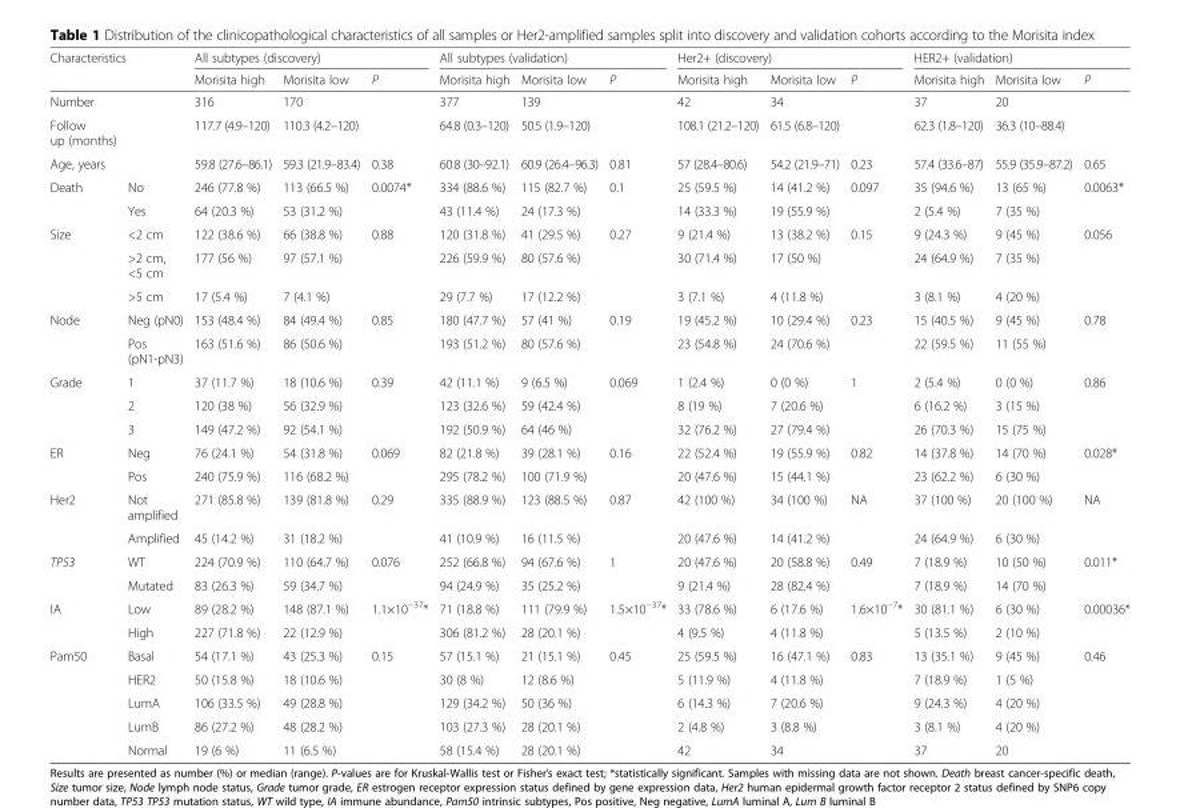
<table><thead><tr><td rowspan="2" colspan="2">Characteristics</td><td colspan="3">All subtypes (discovery)</td><td colspan="3">All subtypes (validation)</td><td colspan="3">Her2+ (discovery)</td><td colspan="3">HER2+ (validation)</td></tr><tr><td rowspan="2">Morisita high 316</td><td rowspan="2">Morisita low 170</td><td rowspan="2">P</td><td rowspan="2">Morisita high 377</td><td rowspan="2">Morisita low 139</td><td rowspan="2">P</td><td rowspan="2">Morisita high 42</td><td rowspan="2">Morisita low 34</td><td rowspan="2">P</td><td rowspan="2">Morisita high 37</td><td rowspan="2">Morisita low 20</td><td rowspan="2">P</td></tr><tr><td>Number</td><td></td></tr></thead><tbody><tr><td>Follow up (months)</td><td></td><td>117.7 (4.9–120)</td><td>110.3 (4.2–120)</td><td></td><td>64.8 (0.3–120)</td><td>50.5 (1.9–120)</td><td></td><td>108.1 (21.2–120)</td><td>61.5 (6.8–120)</td><td></td><td>62.3 (1.8–120)</td><td>36.3 (10–88.4)</td><td></td></tr><tr><td>Age, years</td><td></td><td>59.8 (27.6–86.1)</td><td>59.3 (21.9–83.4)</td><td>0.38</td><td>60.8 (30–92.1)</td><td>60.9 (26.4–96.3)</td><td>0.81</td><td>57 (28.4–80.6)</td><td>54.2 (21.9–71)</td><td>0.23</td><td>57.4 (33.6–87)</td><td>55.9 (35.9–87.2)</td><td>0.65</td></tr><tr><td rowspan="2">Death</td><td>No</td><td>246 (77.8 %)</td><td>113 (66.5 %)</td><td>0.0074*</td><td>334 (88.6 %)</td><td>115 (82.7 %)</td><td>0.1</td><td>25 (59.5 %)</td><td>14 (41.2 %)</td><td>0.097</td><td>35 (94.6 %)</td><td>13 (65 %)</td><td>0.0063*</td></tr><tr><td>Yes</td><td>64 (20.3 %)</td><td>53 (31.2 %)</td><td></td><td>43 (11.4 %)</td><td>24 (17.3 %)</td><td></td><td>14 (33.3 %)</td><td>19 (55.9 %)</td><td></td><td>2 (5.4 %)</td><td>7 (35 %)</td><td></td></tr><tr><td rowspan="3">Size</td><td>&lt;2 cm</td><td>122 (38.6 %)</td><td>66 (38.8 %)</td><td>0.88</td><td>120 (31.8 %)</td><td>41 (29.5 %)</td><td>0.27</td><td>9 (21.4 %)</td><td>13 (38.2 %)</td><td>0.15</td><td>9 (24.3 %)</td><td>9 (45 %)</td><td>0.056</td></tr><tr><td>&gt;2 cm, &lt;5 cm</td><td>177 (56 %)</td><td>97 (57.1 %)</td><td></td><td>226 (59.9 %)</td><td>80 (57.6 %)</td><td></td><td>30 (71.4 %)</td><td>17 (50 %)</td><td></td><td>24 (64.9 %)</td><td>7 (35 %)</td><td></td></tr><tr><td>&gt;5 cm</td><td>17 (5.4 %)</td><td>7 (4.1 %)</td><td></td><td>29 (7.7 %)</td><td>17 (12.2 %)</td><td></td><td>3 (7.1 %)</td><td>4 (11.8 %)</td><td></td><td>3 (8.1 %)</td><td>4 (20 %)</td><td></td></tr><tr><td rowspan="2">Node</td><td>Neg (pN0)</td><td>153 (48.4 %)</td><td>84 (49.4 %)</td><td>0.85</td><td>180 (47.7 %)</td><td>57 (41 %)</td><td>0.19</td><td>19 (45.2 %)</td><td>10 (29.4 %)</td><td>0.23</td><td>15 (40.5 %)</td><td>9 (45 %)</td><td>0.78</td></tr><tr><td>Pos (pN1-pN3)</td><td>163 (51.6 %)</td><td>86 (50.6 %)</td><td></td><td>193 (51.2 %)</td><td>80 (57.6 %)</td><td></td><td>23 (54.8 %)</td><td>24 (70.6 %)</td><td></td><td>22 (59.5 %)</td><td>11 (55 %)</td><td></td></tr><tr><td rowspan="3">Grade</td><td>1</td><td>37 (11.7 %)</td><td>18 (10.6 %)</td><td>0.39</td><td>42 (11.1 %)</td><td>9 (6.5 %)</td><td>0.069</td><td>1 (2.4 %)</td><td>0 (0 %)</td><td>1</td><td>2 (5.4 %)</td><td>0 (0 %)</td><td>0.86</td></tr><tr><td>2</td><td>120 (38 %)</td><td>56 (32.9 %)</td><td></td><td>123 (32.6 %)</td><td>59 (42.4 %)</td><td></td><td>8 (19 %)</td><td>7 (20.6 %)</td><td></td><td>6 (16.2 %)</td><td>3 (15 %)</td><td></td></tr><tr><td>3</td><td>149 (47.2 %)</td><td>92 (54.1 %)</td><td></td><td>192 (50.9 %)</td><td>64 (46 %)</td><td></td><td>32 (76.2 %)</td><td>27 (79.4 %)</td><td></td><td>26 (70.3 %)</td><td>15 (75 %)</td><td></td></tr><tr><td rowspan="2">ER</td><td>Neg</td><td>76 (24.1 %)</td><td>54 (31.8 %)</td><td>0.069</td><td>82 (21.8 %)</td><td>39 (28.1 %)</td><td>0.16</td><td>22 (52.4 %)</td><td>19 (55.9 %)</td><td>0.82</td><td>14 (37.8 %)</td><td>14 (70 %)</td><td>0.028*</td></tr><tr><td>Pos</td><td>240 (75.9 %)</td><td>116 (68.2 %)</td><td></td><td>295 (78.2 %)</td><td>100 (71.9 %)</td><td></td><td>20 (47.6 %)</td><td>15 (44.1 %)</td><td></td><td>23 (62.2 %)</td><td>6 (30 %)</td><td></td></tr><tr><td rowspan="2">Her2</td><td>Not amplified</td><td>271 (85.8 %)</td><td>139 (81.8 %)</td><td>0.29</td><td>335 (88.9 %)</td><td>123 (88.5 %)</td><td>0.87</td><td>42 (100 %)</td><td>34 (100 %)</td><td>NA</td><td>37 (100 %)</td><td>20 (100 %)</td><td>NA</td></tr><tr><td>Amplified</td><td>45 (14.2 %)</td><td>31 (18.2 %)</td><td></td><td>41 (10.9 %)</td><td>16 (11.5 %)</td><td></td><td>20 (47.6 %)</td><td>14 (41.2 %)</td><td></td><td>24 (64.9 %)</td><td>6 (30 %)</td><td></td></tr><tr><td rowspan="2">TP53</td><td>WT</td><td>224 (70.9 %)</td><td>110 (64.7 %)</td><td>0.076</td><td>252 (66.8 %)</td><td>94 (67.6 %)</td><td>1</td><td>20 (47.6 %)</td><td>20 (58.8 %)</td><td>0.49</td><td>7 (18.9 %)</td><td>10 (50 %)</td><td>0.011*</td></tr><tr><td>Mutated</td><td>83 (26.3 %)</td><td>59 (34.7 %)</td><td></td><td>94 (24.9 %)</td><td>35 (25.2 %)</td><td></td><td>9 (21.4 %)</td><td>28 (82.4 %)</td><td></td><td>7 (18.9 %)</td><td>14 (70 %)</td><td></td></tr><tr><td rowspan="2">IA</td><td>Low</td><td>89 (28.2 %)</td><td>148 (87.1 %)</td><td>1.1×10<sup>−37</sup>*</td><td>71 (18.8 %)</td><td>111 (79.9 %)</td><td>1.5×10<sup>−37</sup>*</td><td>33 (78.6 %)</td><td>6 (17.6 %)</td><td>1.6×10<sup>−7</sup>*</td><td>30 (81.1 %)</td><td>6 (30 %)</td><td>0.00036*</td></tr><tr><td>High</td><td>227 (71.8 %)</td><td>22 (12.9 %)</td><td></td><td>306 (81.2 %)</td><td>28 (20.1 %)</td><td></td><td>4 (9.5 %)</td><td>4 (11.8 %)</td><td></td><td>5 (13.5 %)</td><td>2 (10 %)</td><td></td></tr><tr><td rowspan="5">Pam50</td><td>Basal</td><td>54 (17.1 %)</td><td>43 (25.3 %)</td><td>0.15</td><td>57 (15.1 %)</td><td>21 (15.1 %)</td><td>0.45</td><td>25 (59.5 %)</td><td>16 (47.1 %)</td><td>0.83</td><td>13 (35.1 %)</td><td>9 (45 %)</td><td>0.46</td></tr><tr><td>HER2</td><td>50 (15.8 %)</td><td>18 (10.6 %)</td><td></td><td>30 (8 %)</td><td>12 (8.6 %)</td><td></td><td>5 (11.9 %)</td><td>4 (11.8 %)</td><td></td><td>7 (18.9 %)</td><td>1 (5 %)</td><td></td></tr><tr><td>LumA</td><td>106 (33.5 %)</td><td>49 (28.8 %)</td><td></td><td>129 (34.2 %)</td><td>50 (36 %)</td><td></td><td>6 (14.3 %)</td><td>7 (20.6 %)</td><td></td><td>9 (24.3 %)</td><td>4 (20 %)</td><td></td></tr><tr><td>LumB</td><td>86 (27.2 %)</td><td>48 (28.2 %)</td><td></td><td>103 (27.3 %)</td><td>28 (20.1 %)</td><td></td><td>2 (4.8 %)</td><td>3 (8.8 %)</td><td></td><td>3 (8.1 %)</td><td>4 (20 %)</td><td></td></tr><tr><td>Normal</td><td>19 (6 %)</td><td>11 (6.5 %)</td><td></td><td>58 (15.4 %)</td><td>28 (20.1 %)</td><td></td><td>42</td><td>34</td><td></td><td>37</td><td>20</td><td></td></tr></tbody></table>